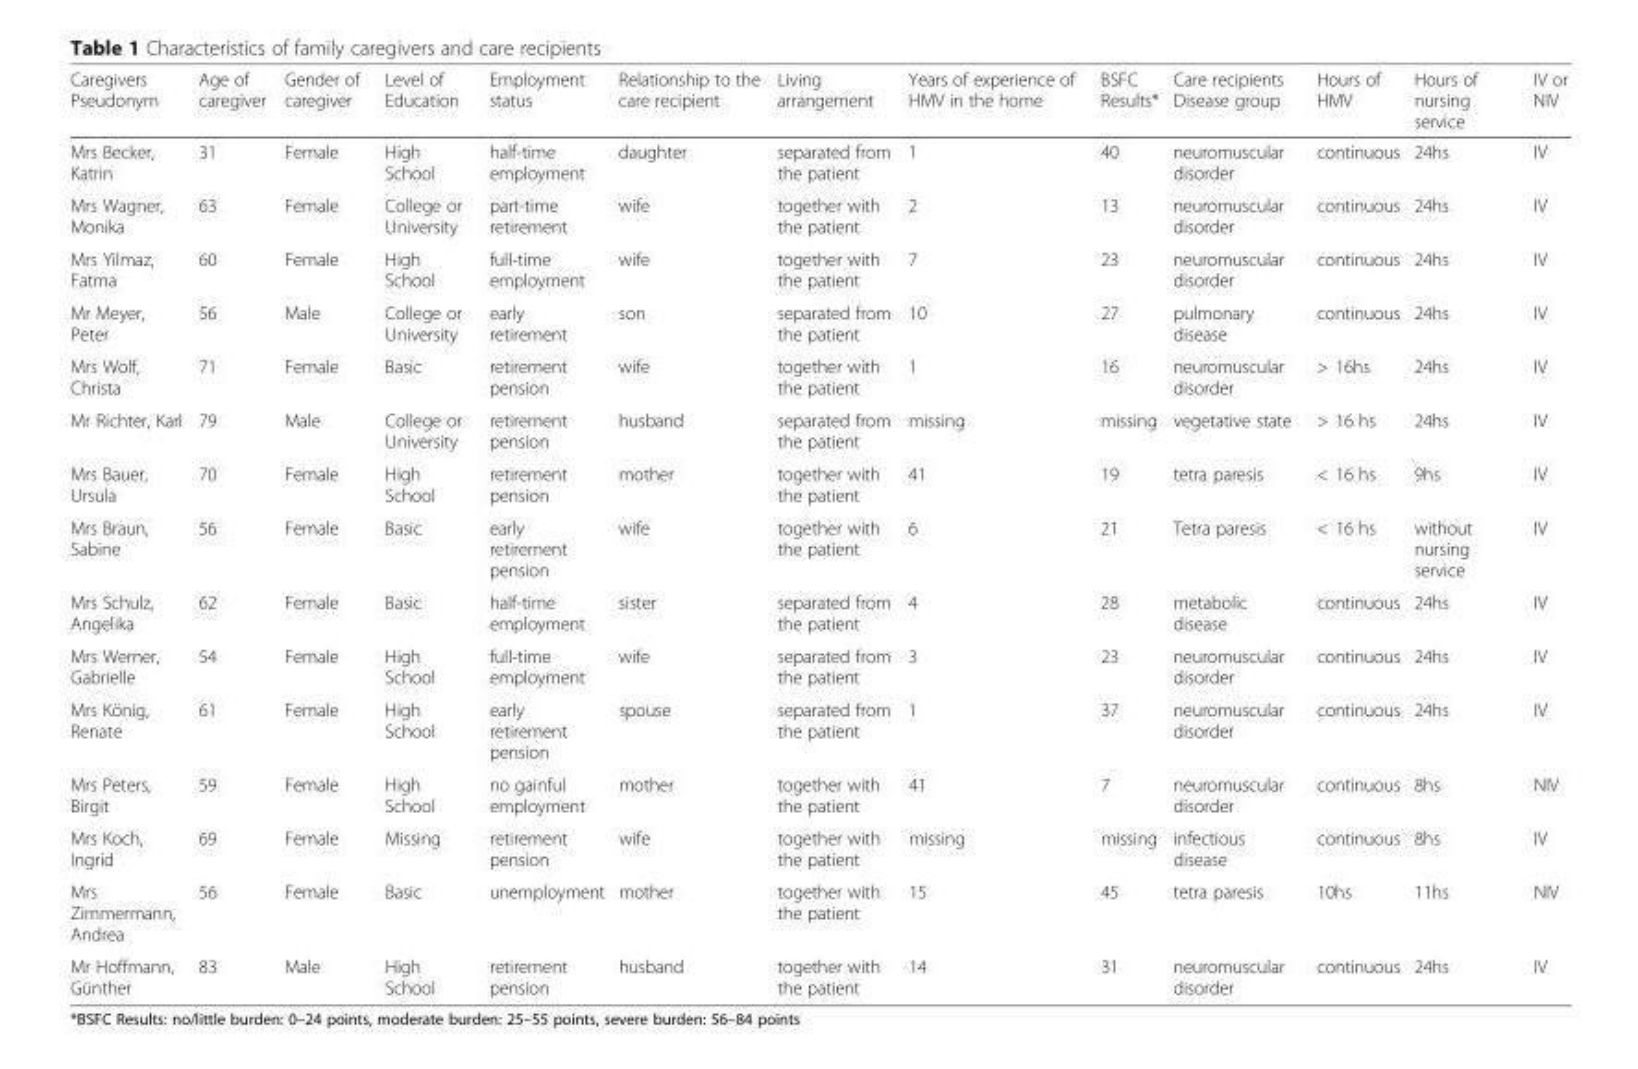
<table><thead><tr><td>Caregivers Pseudonym</td><td>Age of caregiver</td><td>Gender of caregiver</td><td>Level of Education</td><td>Employment status</td><td>Relationship to the care recipient</td><td>Living arrangement</td><td>Years of experience of HMV in the home</td><td>BSFC Results*</td><td>Care recipients Disease group</td><td>Hours of HMV</td><td>Hours of nursing service</td><td>IV or NIV</td></tr></thead><tbody><tr><td>Mrs Becker, Katrin</td><td>31</td><td>Female</td><td>High School</td><td>half-time employment</td><td>daughter</td><td>separated from the patient</td><td>1</td><td>40</td><td>neuromuscular disorder</td><td>continuous</td><td>24hs</td><td>IV</td></tr><tr><td>Mrs Wagner, Monika</td><td>63</td><td>Female</td><td>College or University</td><td>part-time retirement</td><td>wife</td><td>together with the patient</td><td>2</td><td>13</td><td>neuromuscular disorder</td><td>continuous</td><td>24hs</td><td>IV</td></tr><tr><td>Mrs Yilmaz, Fatma</td><td>60</td><td>Female</td><td>High School</td><td>full-time employment</td><td>wife</td><td>together with the patient</td><td>7</td><td>23</td><td>neuromuscular disorder</td><td>continuous</td><td>24hs</td><td>IV</td></tr><tr><td>Mr Meyer, Peter</td><td>56</td><td>Male</td><td>College or University</td><td>early retirement</td><td>son</td><td>separated from the patient</td><td>10</td><td>27</td><td>pulmonary disease</td><td>continuous</td><td>24hs</td><td>IV</td></tr><tr><td>Mrs Wolf, Christa</td><td>71</td><td>Female</td><td>Basic</td><td>retirement pension</td><td>wife</td><td>together with the patient</td><td>1</td><td>16</td><td>neuromuscular disorder</td><td>&gt; 16hs</td><td>24hs</td><td>IV</td></tr><tr><td>Mr Richter, Karl</td><td>79</td><td>Male</td><td>College or University</td><td>retirement pension</td><td>husband</td><td>separated from the patient</td><td>missing</td><td>missing</td><td>vegetative state</td><td>&gt; 16 hs</td><td>24hs</td><td>IV</td></tr><tr><td>Mrs Bauer, Ursula</td><td>70</td><td>Female</td><td>High School</td><td>retirement pension</td><td>mother</td><td>together with the patient</td><td>41</td><td>19</td><td>tetra paresis</td><td>&lt; 16 hs</td><td>9hs</td><td>IV</td></tr><tr><td>Mrs Braun, Sabine</td><td>56</td><td>Female</td><td>Basic</td><td>early retirement pension</td><td>wife</td><td>together with the patient</td><td>6</td><td>21</td><td>Tetra paresis</td><td>&lt; 16 hs</td><td>without nursing service</td><td>IV</td></tr><tr><td>Mrs Schulz, Angelika</td><td>62</td><td>Female</td><td>Basic</td><td>half-time employment</td><td>sister</td><td>separated from the patient</td><td>4</td><td>28</td><td>metabolic disease</td><td>continuous</td><td>24hs</td><td>IV</td></tr><tr><td>Mrs Werner, Gabrielle</td><td>54</td><td>Female</td><td>High School</td><td>full-time employment</td><td>wife</td><td>separated from the patient</td><td>3</td><td>23</td><td>neuromuscular disorder</td><td>continuous</td><td>24hs</td><td>IV</td></tr><tr><td>Mrs König, Renate</td><td>61</td><td>Female</td><td>High School</td><td>early retirement pension</td><td>spouse</td><td>separated from the patient</td><td>1</td><td>37</td><td>neuromuscular disorder</td><td>continuous</td><td>24hs</td><td>IV</td></tr><tr><td>Mrs Peters, Birgit</td><td>59</td><td>Female</td><td>High School</td><td>no gainful employment</td><td>mother</td><td>together with the patient</td><td>41</td><td>7</td><td>neuromuscular disorder</td><td>continuous</td><td>8hs</td><td>NIV</td></tr><tr><td>Mrs Koch, Ingrid</td><td>69</td><td>Female</td><td>Missing</td><td>retirement pension</td><td>wife</td><td>together with the patient</td><td>missing</td><td>missing</td><td>infectious disease</td><td>continuous</td><td>8hs</td><td>IV</td></tr><tr><td>Mrs Zimmermann, Andrea</td><td>56</td><td>Female</td><td>Basic</td><td>unemployment</td><td>mother</td><td>together with the patient</td><td>15</td><td>45</td><td>tetra paresis</td><td>10hs</td><td>11hs</td><td>NIV</td></tr><tr><td>Mr Hoffmann, Günther</td><td>83</td><td>Male</td><td>High School</td><td>retirement pension</td><td>husband</td><td>together with the patient</td><td>14</td><td>31</td><td>neuromuscular disorder</td><td>continuous</td><td>24hs</td><td>IV</td></tr></tbody></table>